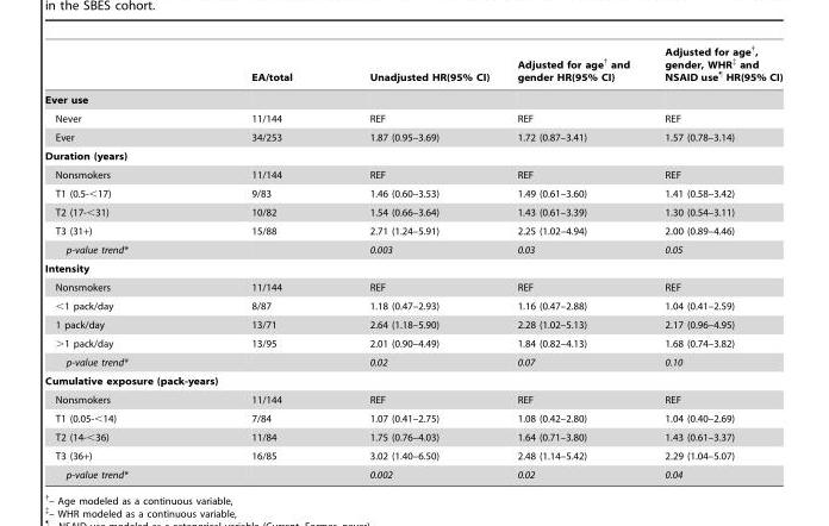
<table><thead><tr><td></td><td>EA/total</td><td>Unadjusted HR(95% CI)</td><td>Adjusted for age† and gender HR(95% CI)</td><td>Adjusted for age†, gender, WHR‡ and NSAID use¶ HR(95% CI)</td></tr></thead><tbody><tr><td colspan="5">Ever use</td></tr><tr><td>Never</td><td>11/144</td><td>REF</td><td>REF</td><td>REF</td></tr><tr><td>Ever</td><td>34/253</td><td>1.87 (0.95–3.69)</td><td>1.72 (0.87–3.41)</td><td>1.57 (0.78–3.14)</td></tr><tr><td colspan="5">Duration (years)</td></tr><tr><td>Nonsmokers</td><td>11/144</td><td>REF</td><td>REF</td><td>REF</td></tr><tr><td>T1 (0.5-&lt;17)</td><td>9/83</td><td>1.46 (0.60–3.53)</td><td>1.49 (0.61–3.60)</td><td>1.41 (0.58–3.42)</td></tr><tr><td>T2 (17-&lt;31)</td><td>10/82</td><td>1.54 (0.66–3.64)</td><td>1.43 (0.61–3.39)</td><td>1.30 (0.54–3.11)</td></tr><tr><td>T3 (31+)</td><td>15/88</td><td>2.71 (1.24–5.91)</td><td>2.25 (1.02–4.94)</td><td>2.00 (0.89–4.46)</td></tr><tr><td>p-value trend*</td><td></td><td>0.003</td><td>0.03</td><td>0.05</td></tr><tr><td colspan="5">Intensity</td></tr><tr><td>Nonsmokers</td><td>11/144</td><td>REF</td><td>REF</td><td>REF</td></tr><tr><td>&lt;1 pack/day</td><td>8/87</td><td>1.18 (0.47–2.93)</td><td>1.16 (0.47–2.88)</td><td>1.04 (0.41–2.59)</td></tr><tr><td>1 pack/day</td><td>13/71</td><td>2.64 (1.18–5.90)</td><td>2.28 (1.02–5.13)</td><td>2.17 (0.96–4.95)</td></tr><tr><td>&gt;1 pack/day</td><td>13/95</td><td>2.01 (0.90–4.49)</td><td>1.84 (0.82–4.13)</td><td>1.68 (0.74–3.82)</td></tr><tr><td>p-value trend*</td><td></td><td>0.02</td><td>0.07</td><td>0.10</td></tr><tr><td colspan="5">Cumulative exposure (pack-years)</td></tr><tr><td>Nonsmokers</td><td>11/144</td><td>REF</td><td>REF</td><td>REF</td></tr><tr><td>T1 (0.05-&lt;14)</td><td>7/84</td><td>1.07 (0.41–2.75)</td><td>1.08 (0.42–2.80)</td><td>1.04 (0.40–2.69)</td></tr><tr><td>T2 (14-&lt;36)</td><td>11/84</td><td>1.75 (0.76–4.03)</td><td>1.64 (0.71–3.80)</td><td>1.43 (0.61–3.37)</td></tr><tr><td>T3 (36+)</td><td>16/85</td><td>3.02 (1.40–6.50)</td><td>2.48 (1.14–5.42)</td><td>2.29 (1.04–5.07)</td></tr><tr><td>p-value trend*</td><td></td><td>0.002</td><td>0.02</td><td>0.04</td></tr></tbody></table>